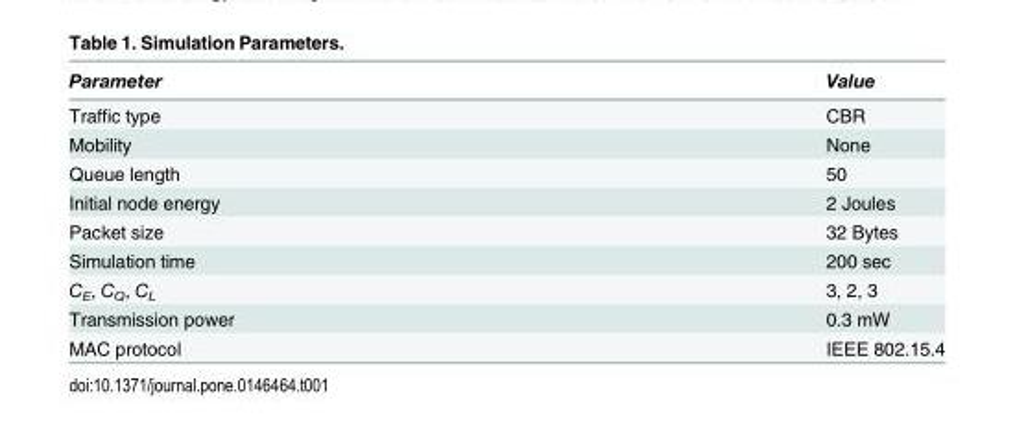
<table><thead><tr><td>Parameter</td><td>Value</td></tr></thead><tbody><tr><td>Traffic type</td><td>CBR</td></tr><tr><td>Mobility</td><td>None</td></tr><tr><td>Queue length</td><td>50</td></tr><tr><td>Initial node energy</td><td>2 Joules</td></tr><tr><td>Packet size</td><td>32 Bytes</td></tr><tr><td>Simulation time</td><td>200 sec</td></tr><tr><td>C<sub>E</sub>, C<sub>Q</sub>, C<sub>L</sub></td><td>3, 2, 3</td></tr><tr><td>Transmission power</td><td>0.3 mW</td></tr><tr><td>MAC protocol</td><td>IEEE 802.15.4</td></tr></tbody></table>